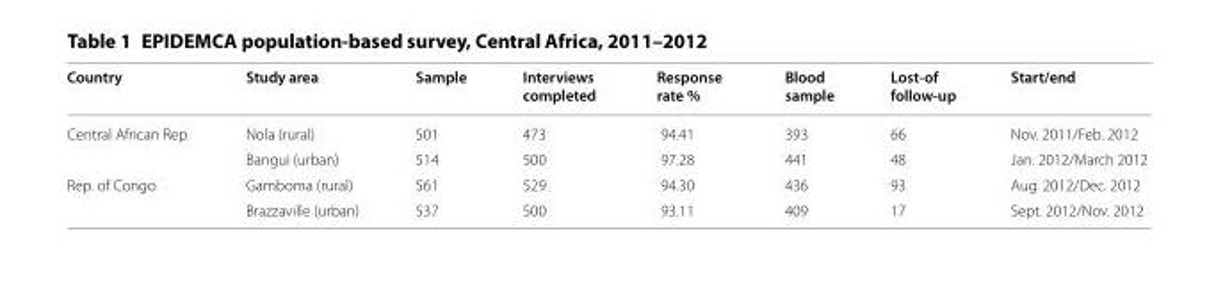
<table><thead><tr><td>Country</td><td>Study area</td><td>Sample</td><td>Interviews completed</td><td>Response rate %</td><td>Blood sample</td><td>Lost-of follow-up</td><td>Start/end</td></tr></thead><tbody><tr><td rowspan="2">Central African Rep.</td><td>Nola (rural)</td><td>501</td><td>473</td><td>94.41</td><td>393</td><td>66</td><td>Nov. 2011/Feb. 2012</td></tr><tr><td>Bangui (urban)</td><td>514</td><td>500</td><td>97.28</td><td>441</td><td>48</td><td>Jan. 2012/March 2012</td></tr><tr><td rowspan="2">Rep. of Congo</td><td>Gamboma (rural)</td><td>561</td><td>529</td><td>94.30</td><td>436</td><td>93</td><td>Aug. 2012/Dec. 2012</td></tr><tr><td>Brazzaville (urban)</td><td>537</td><td>500</td><td>93.11</td><td>409</td><td>17</td><td>Sept. 2012/Nov. 2012</td></tr></tbody></table>